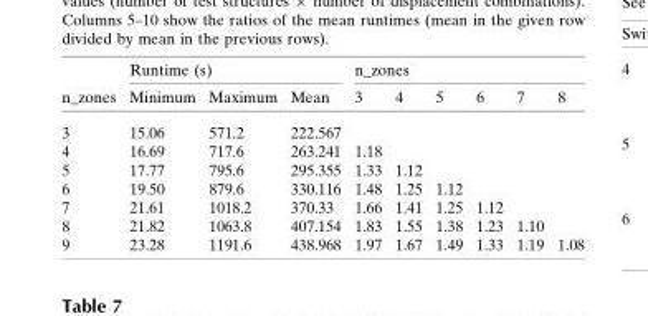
<table><thead><tr><td rowspan="2">n_zones</td><td colspan="3">Runtime (s)</td><td colspan="6">n_zones</td></tr><tr><td>Minimum</td><td>Maximum</td><td>Mean</td><td>3</td><td>4</td><td>5</td><td>6</td><td>7</td><td>8</td></tr></thead><tbody><tr><td>3</td><td>15.06</td><td>571.2</td><td>222.567</td><td></td><td></td><td></td><td></td><td></td><td></td></tr><tr><td>4</td><td>16.69</td><td>717.6</td><td>263.241</td><td>1.18</td><td></td><td></td><td></td><td></td><td></td></tr><tr><td>5</td><td>17.77</td><td>795.6</td><td>295.355</td><td>1.33</td><td>1.12</td><td></td><td></td><td></td><td></td></tr><tr><td>6</td><td>19.50</td><td>879.6</td><td>330.116</td><td>1.48</td><td>1.25</td><td>1.12</td><td></td><td></td><td></td></tr><tr><td>7</td><td>21.61</td><td>1018.2</td><td>370.33</td><td>1.66</td><td>1.41</td><td>1.25</td><td>1.12</td><td></td><td></td></tr><tr><td>8</td><td>21.82</td><td>1063.8</td><td>407.154</td><td>1.83</td><td>1.55</td><td>1.38</td><td>1.23</td><td>1.10</td><td></td></tr><tr><td>9</td><td>23.28</td><td>1191.6</td><td>438.968</td><td>1.97</td><td>1.67</td><td>1.49</td><td>1.33</td><td>1.19</td><td>1.08</td></tr></tbody></table>